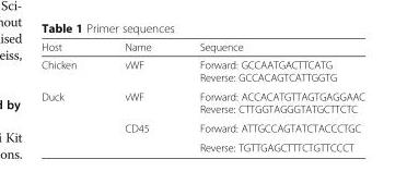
<table><thead><tr><td>Host</td><td>Name</td><td>Sequence</td></tr></thead><tbody><tr><td>Chicken</td><td>vWF</td><td>Forward: GCCAATGACTTCATG Reverse: GCCACAGTCATTGGTG</td></tr><tr><td rowspan="3">Duck</td><td>vWF</td><td>Forward: ACCACATGTTAGTGAGGAAC Reverse: CTTGGTAGGGTATGCTTCTC</td></tr><tr><td>CD45</td><td>Forward: ATTGCCAGTATCTACCCTGC</td></tr><tr><td></td><td>Reverse: TGTTGAGCTTTCTGTTCCCT</td></tr></tbody></table>